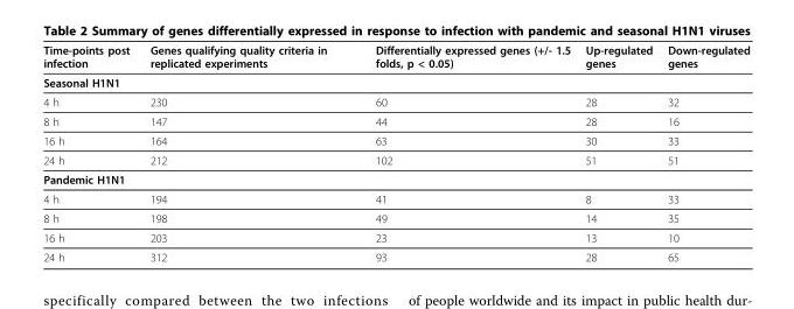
<table><thead><tr><td>Time-points post infection</td><td>Genes qualifying quality criteria in replicated experiments</td><td>Differentially expressed genes (+/- 1.5 folds, p &lt; 0.05)</td><td>Up-regulated genes</td><td>Down-regulated genes</td></tr></thead><tbody><tr><td colspan="5">Seasonal H1N1</td></tr><tr><td>4 h</td><td>230</td><td>60</td><td>28</td><td>32</td></tr><tr><td>8 h</td><td>147</td><td>44</td><td>28</td><td>16</td></tr><tr><td>16 h</td><td>164</td><td>63</td><td>30</td><td>33</td></tr><tr><td>24 h</td><td>212</td><td>102</td><td>51</td><td>51</td></tr><tr><td colspan="5">Pandemic H1N1</td></tr><tr><td>4 h</td><td>194</td><td>41</td><td>8</td><td>33</td></tr><tr><td>8 h</td><td>198</td><td>49</td><td>14</td><td>35</td></tr><tr><td>16 h</td><td>203</td><td>23</td><td>13</td><td>10</td></tr><tr><td>24 h</td><td>312</td><td>93</td><td>28</td><td>65</td></tr></tbody></table>